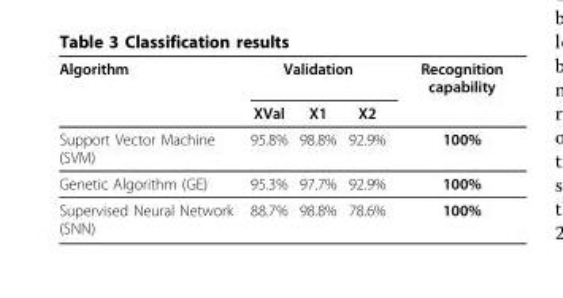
<table><thead><tr><td rowspan="2">Algorithm</td><td colspan="3">Validation</td><td rowspan="2">Recognition capability</td></tr><tr><td>XVal</td><td>X1</td><td>X2</td></tr></thead><tbody><tr><td>Support Vector Machine (SVM)</td><td>95.8%</td><td>98.8%</td><td>92.9%</td><td>100%</td></tr><tr><td>Genetic Algorithm (GE)</td><td>95.3%</td><td>97.7%</td><td>92.9%</td><td>100%</td></tr><tr><td>Supervised Neural Network (SNN)</td><td>88.7%</td><td>98.8%</td><td>78.6%</td><td>100%</td></tr></tbody></table>